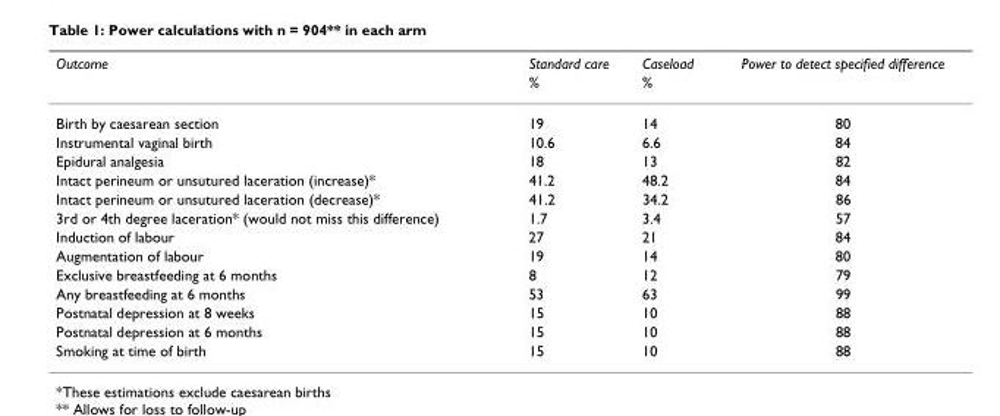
<table><thead><tr><td rowspan="2">Outcome</td><td rowspan="2">Standard care %</td><td rowspan="2">Caseload %</td><td rowspan="2">Power to detect specified difference</td></tr><tr></tr></thead><tbody><tr><td>Birth by caesarean section</td><td>19</td><td>14</td><td>80</td></tr><tr><td>Instrumental vaginal birth</td><td>10.6</td><td>6.6</td><td>84</td></tr><tr><td>Epidural analgesia</td><td>18</td><td>13</td><td>82</td></tr><tr><td>Intact perineum or unsutured laceration (increase)*</td><td>41.2</td><td>48.2</td><td>84</td></tr><tr><td>Intact perineum or unsutured laceration (decrease)*</td><td>41.2</td><td>34.2</td><td>86</td></tr><tr><td>3rd or 4th degree laceration* (would not miss this difference)</td><td>1.7</td><td>3.4</td><td>57</td></tr><tr><td>Induction of labour</td><td>27</td><td>21</td><td>84</td></tr><tr><td>Augmentation of labour</td><td>19</td><td>14</td><td>80</td></tr><tr><td>Exclusive breastfeeding at 6 months</td><td>8</td><td>12</td><td>79</td></tr><tr><td>Any breastfeeding at 6 months</td><td>53</td><td>63</td><td>99</td></tr><tr><td>Postnatal depression at 8 weeks</td><td>15</td><td>10</td><td>88</td></tr><tr><td>Postnatal depression at 6 months</td><td>15</td><td>10</td><td>88</td></tr><tr><td>Smoking at time of birth</td><td>15</td><td>10</td><td>88</td></tr></tbody></table>